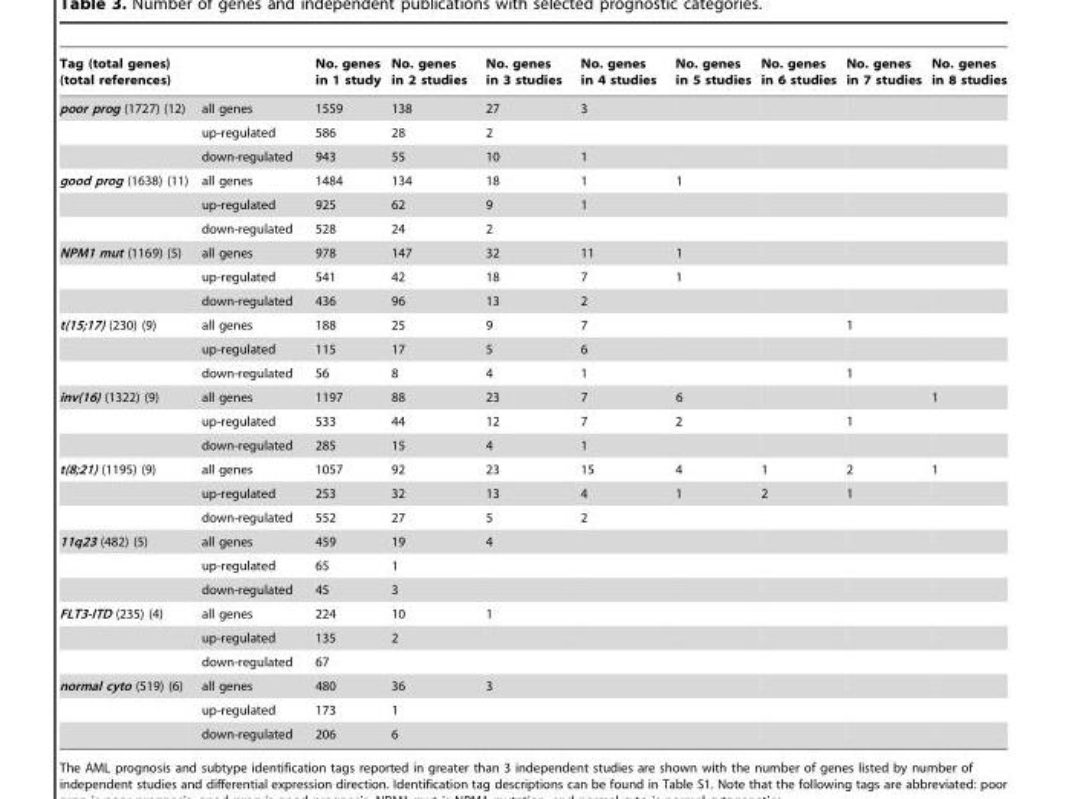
<table><thead><tr><td>Tag (total genes) (total references)</td><td></td><td>No. genes in 1 study</td><td>No. genes in 2 studies</td><td>No. genes in 3 studies</td><td>No. genes in 4 studies</td><td>No. genes in 5 studies</td><td>No. genes in 6 studies</td><td>No. genes in 7 studies</td><td>No. genes in 8 studies</td></tr></thead><tbody><tr><td rowspan="3">poor prog (1727) (12)</td><td>all genes</td><td>1559</td><td>138</td><td>27</td><td>3</td><td></td><td></td><td></td><td></td></tr><tr><td>up-regulated</td><td>586</td><td>28</td><td>2</td><td></td><td></td><td></td><td></td><td></td></tr><tr><td>down-regulated</td><td>943</td><td>55</td><td>10</td><td>1</td><td></td><td></td><td></td><td></td></tr><tr><td rowspan="3">good prog (1638) (11)</td><td>all genes</td><td>1484</td><td>134</td><td>18</td><td>1</td><td>1</td><td></td><td></td><td></td></tr><tr><td>up-regulated</td><td>925</td><td>62</td><td>9</td><td>1</td><td></td><td></td><td></td><td></td></tr><tr><td>down-regulated</td><td>528</td><td>24</td><td>2</td><td></td><td></td><td></td><td></td><td></td></tr><tr><td rowspan="3">NPM1 mut (1169) (5)</td><td>all genes</td><td>978</td><td>147</td><td>32</td><td>11</td><td>1</td><td></td><td></td><td></td></tr><tr><td>up-regulated</td><td>541</td><td>42</td><td>18</td><td>7</td><td>1</td><td></td><td></td><td></td></tr><tr><td>down-regulated</td><td>436</td><td>96</td><td>13</td><td>2</td><td></td><td></td><td></td><td></td></tr><tr><td rowspan="3">t(15;17) (230) (9)</td><td>all genes</td><td>188</td><td>25</td><td>9</td><td>7</td><td></td><td></td><td>1</td><td></td></tr><tr><td>up-regulated</td><td>115</td><td>17</td><td>5</td><td>6</td><td></td><td></td><td></td><td></td></tr><tr><td>down-regulated</td><td>56</td><td>8</td><td>4</td><td>1</td><td></td><td></td><td>1</td><td></td></tr><tr><td rowspan="3">inv(16) (1322) (9)</td><td>all genes</td><td>1197</td><td>88</td><td>23</td><td>7</td><td>6</td><td></td><td></td><td>1</td></tr><tr><td>up-regulated</td><td>533</td><td>44</td><td>12</td><td>7</td><td>2</td><td></td><td>1</td><td></td></tr><tr><td>down-regulated</td><td>285</td><td>15</td><td>4</td><td>1</td><td></td><td></td><td></td><td></td></tr><tr><td rowspan="3">t(8;21) (1195) (9)</td><td>all genes</td><td>1057</td><td>92</td><td>23</td><td>15</td><td>4</td><td>1</td><td>2</td><td>1</td></tr><tr><td>up-regulated</td><td>253</td><td>32</td><td>13</td><td>4</td><td>1</td><td>2</td><td>1</td><td></td></tr><tr><td>down-regulated</td><td>552</td><td>27</td><td>5</td><td>2</td><td></td><td></td><td></td><td></td></tr><tr><td rowspan="3">11q23 (482) (5)</td><td>all genes</td><td>459</td><td>19</td><td>4</td><td></td><td></td><td></td><td></td><td></td></tr><tr><td>up-regulated</td><td>65</td><td>1</td><td></td><td></td><td></td><td></td><td></td><td></td></tr><tr><td>down-regulated</td><td>45</td><td>3</td><td></td><td></td><td></td><td></td><td></td><td></td></tr><tr><td rowspan="3">FLT3-ITD (235) (4)</td><td>all genes</td><td>224</td><td>10</td><td>1</td><td></td><td></td><td></td><td></td><td></td></tr><tr><td>up-regulated</td><td>135</td><td>2</td><td></td><td></td><td></td><td></td><td></td><td></td></tr><tr><td>down-regulated</td><td>67</td><td></td><td></td><td></td><td></td><td></td><td></td><td></td></tr><tr><td rowspan="3">normal cyto (519) (6)</td><td>all genes</td><td>480</td><td>36</td><td>3</td><td></td><td></td><td></td><td></td><td></td></tr><tr><td>up-regulated</td><td>173</td><td>1</td><td></td><td></td><td></td><td></td><td></td><td></td></tr><tr><td>down-regulated</td><td>206</td><td>6</td><td></td><td></td><td></td><td></td><td></td><td></td></tr></tbody></table>